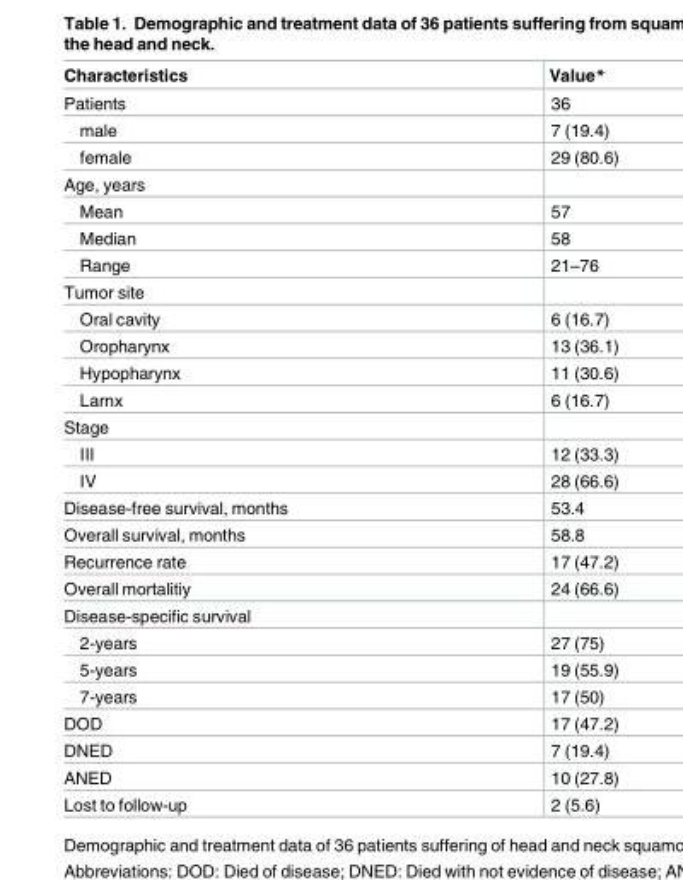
<table><thead><tr><td>Characteristics</td><td>Value*</td></tr></thead><tbody><tr><td>Patients</td><td>36</td></tr><tr><td>male</td><td>7 (19.4)</td></tr><tr><td>female</td><td>29 (80.6)</td></tr><tr><td colspan="2">Age, years</td></tr><tr><td>Mean</td><td>57</td></tr><tr><td>Median</td><td>58</td></tr><tr><td>Range</td><td>21–76</td></tr><tr><td colspan="2">Tumor site</td></tr><tr><td>Oral cavity</td><td>6 (16.7)</td></tr><tr><td>Oropharynx</td><td>13 (36.1)</td></tr><tr><td>Hypopharynx</td><td>11 (30.6)</td></tr><tr><td>Larnx</td><td>6 (16.7)</td></tr><tr><td colspan="2">Stage</td></tr><tr><td>III</td><td>12 (33.3)</td></tr><tr><td>IV</td><td>28 (66.6)</td></tr><tr><td>Disease-free survival, months</td><td>53.4</td></tr><tr><td>Overall survival, months</td><td>58.8</td></tr><tr><td>Recurrence rate</td><td>17 (47.2)</td></tr><tr><td>Overall mortalitiy</td><td>24 (66.6)</td></tr><tr><td colspan="2">Disease-specific survival</td></tr><tr><td>2-years</td><td>27 (75)</td></tr><tr><td>5-years</td><td>19 (55.9)</td></tr><tr><td>7-years</td><td>17 (50)</td></tr><tr><td>DOD</td><td>17 (47.2)</td></tr><tr><td>DNED</td><td>7 (19.4)</td></tr><tr><td>ANED</td><td>10 (27.8)</td></tr><tr><td>Lost to follow-up</td><td>2 (5.6)</td></tr></tbody></table>